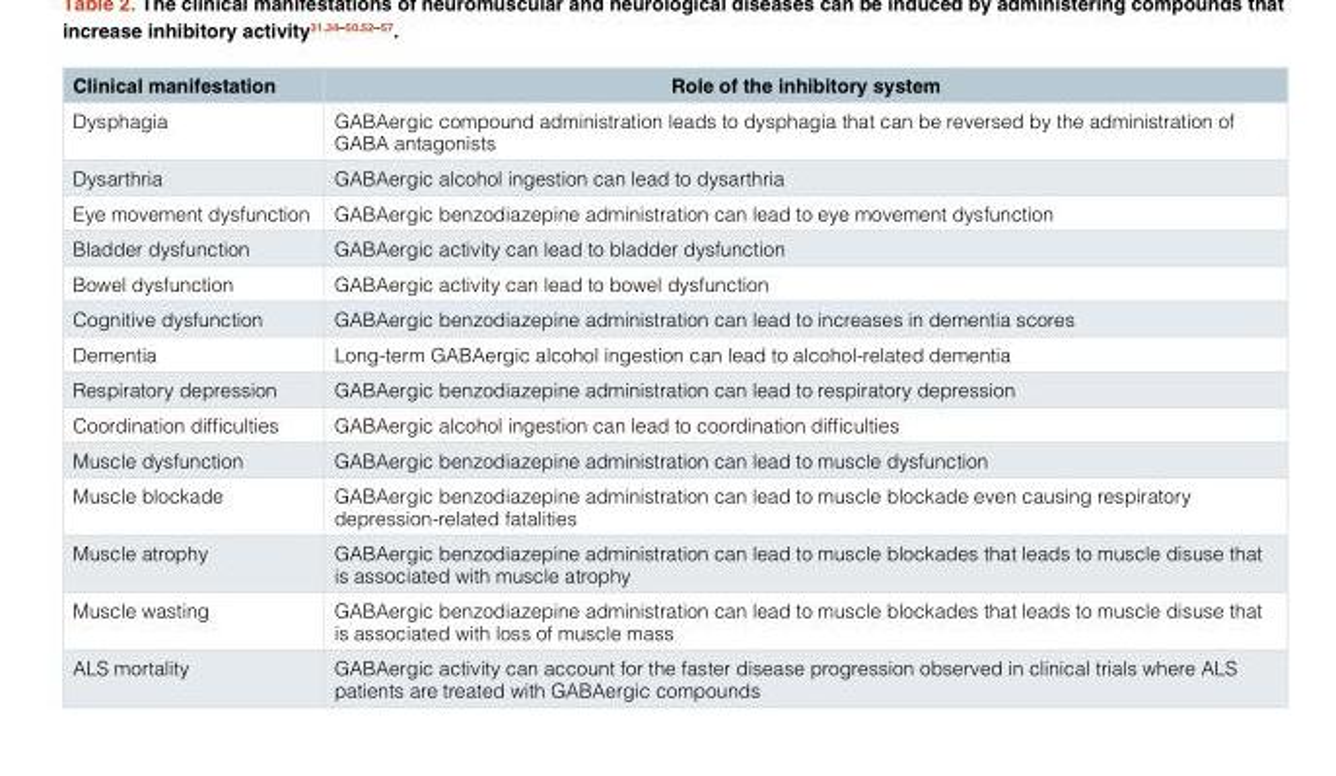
<table><thead><tr><td>Clinical manifestation</td><td>Role of the inhibitory system</td></tr></thead><tbody><tr><td>Dysphagia</td><td>GABAergic compound administration leads to dysphagia that can be reversed by the administration of GABA antagonists</td></tr><tr><td>Dysarthria</td><td>GABAergic alcohol ingestion can lead to dysarthria</td></tr><tr><td>Eye movement dysfunction</td><td>GABAergic benzodiazepine administration can lead to eye movement dysfunction</td></tr><tr><td>Bladder dysfunction</td><td>GABAergic activity can lead to bladder dysfunction</td></tr><tr><td>Bowel dysfunction</td><td>GABAergic activity can lead to bowel dysfunction</td></tr><tr><td>Cognitive dysfunction</td><td>GABAergic benzodiazepine administration can lead to increases in dementia scores</td></tr><tr><td>Dementia</td><td>Long-term GABAergic alcohol ingestion can lead to alcohol-related dementia</td></tr><tr><td>Respiratory depression</td><td>GABAergic benzodiazepine administration can lead to respiratory depression</td></tr><tr><td>Coordination difficulties</td><td>GABAergic alcohol ingestion can lead to coordination difficulties</td></tr><tr><td>Muscle dysfunction</td><td>GABAergic benzodiazepine administration can lead to muscle dysfunction</td></tr><tr><td>Muscle blockade</td><td>GABAergic benzodiazepine administration can lead to muscle blockade even causing respiratory depression-related fatalities</td></tr><tr><td>Muscle atrophy</td><td>GABAergic benzodiazepine administration can lead to muscle blockades that leads to muscle disuse that is associated with muscle atrophy</td></tr><tr><td>Muscle wasting</td><td>GABAergic benzodiazepine administration can lead to muscle blockades that leads to muscle disuse that is associated with loss of muscle mass</td></tr><tr><td>ALS mortality</td><td>GABAergic activity can account for the faster disease progression observed in clinical trials where ALS patients are treated with GABAergic compounds</td></tr></tbody></table>